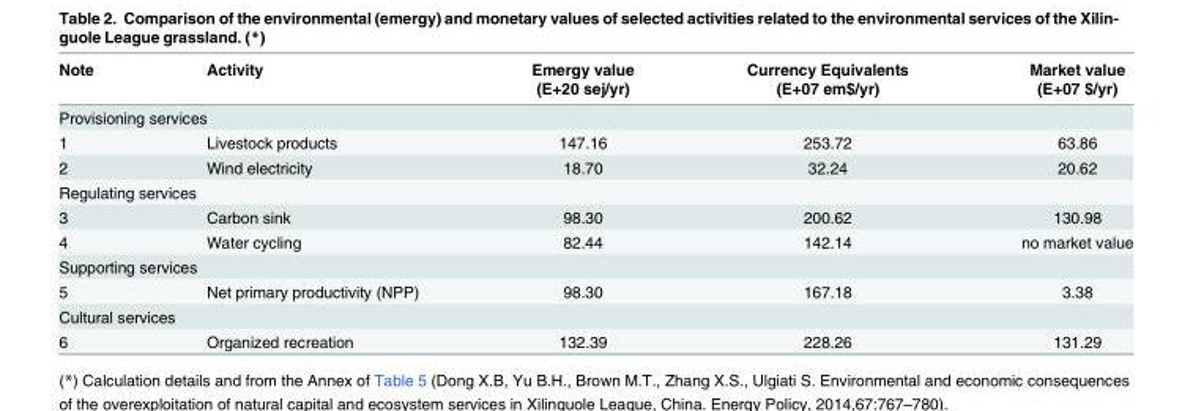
<table><thead><tr><td rowspan="2">Note</td><td rowspan="2">Activity</td><td rowspan="2">Emergy value (E+20 sej/yr)</td><td rowspan="2">Currency Equivalents (E+07 em$/yr)</td><td rowspan="2">Market value (E+07 $/yr)</td></tr><tr></tr></thead><tbody><tr><td colspan="5">Provisioning services</td></tr><tr><td>1</td><td>Livestock products</td><td>147.16</td><td>253.72</td><td>63.86</td></tr><tr><td>2</td><td>Wind electricity</td><td>18.70</td><td>32.24</td><td>20.62</td></tr><tr><td colspan="5">Regulating services</td></tr><tr><td>3</td><td>Carbon sink</td><td>98.30</td><td>200.62</td><td>130.98</td></tr><tr><td>4</td><td>Water cycling</td><td>82.44</td><td>142.14</td><td>no market value</td></tr><tr><td colspan="5">Supporting services</td></tr><tr><td>5</td><td>Net primary productivity (NPP)</td><td>98.30</td><td>167.18</td><td>3.38</td></tr><tr><td colspan="5">Cultural services</td></tr><tr><td>6</td><td>Organized recreation</td><td>132.39</td><td>228.26</td><td>131.29</td></tr></tbody></table>